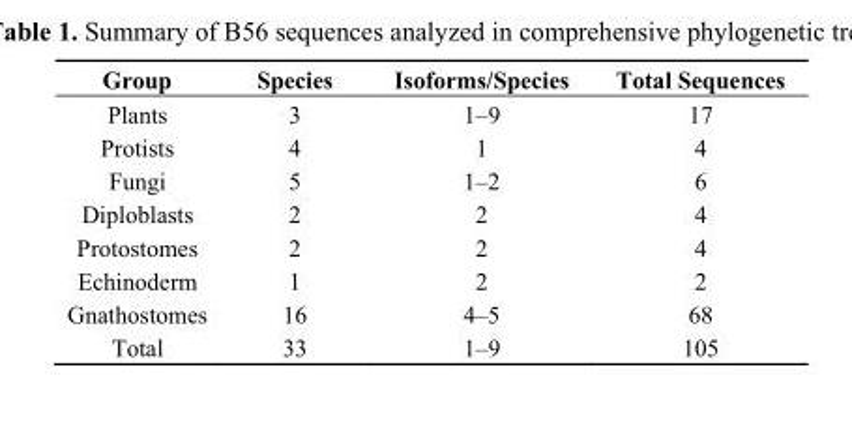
<table><thead><tr><td>Group</td><td>Species</td><td>Isoforms/Species</td><td>Total Sequences</td></tr></thead><tbody><tr><td>Plants</td><td>3</td><td>1–9</td><td>17</td></tr><tr><td>Protists</td><td>4</td><td>1</td><td>4</td></tr><tr><td>Fungi</td><td>5</td><td>1–2</td><td>6</td></tr><tr><td>Diploblasts</td><td>2</td><td>2</td><td>4</td></tr><tr><td>Protostomes</td><td>2</td><td>2</td><td>4</td></tr><tr><td>Echinoderm</td><td>1</td><td>2</td><td>2</td></tr><tr><td>Gnathostomes</td><td>16</td><td>4–5</td><td>68</td></tr><tr><td>Total</td><td>33</td><td>1–9</td><td>105</td></tr></tbody></table>